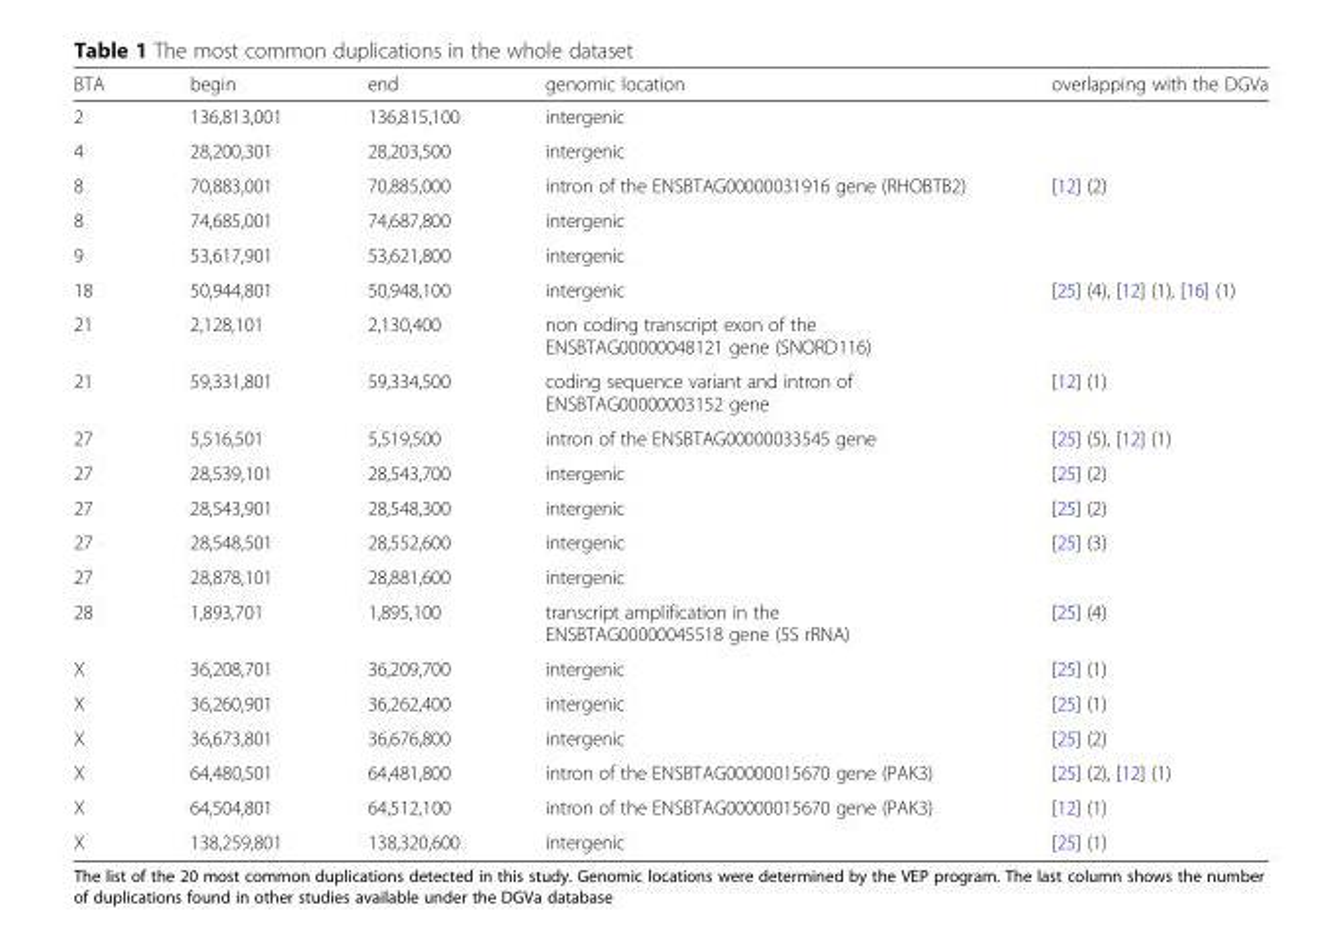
<table><thead><tr><td>BTA</td><td>begin</td><td>end</td><td>genomic location</td><td>overlapping with the DGVa</td></tr></thead><tbody><tr><td>2</td><td>136,813,001</td><td>136,815,100</td><td>intergenic</td><td></td></tr><tr><td>4</td><td>28,200,301</td><td>28,203,500</td><td>intergenic</td><td></td></tr><tr><td>8</td><td>70,883,001</td><td>70,885,000</td><td>intron of the ENSBTAG00000031916 gene (RHOBTB2)</td><td>[12] (2)</td></tr><tr><td>8</td><td>74,685,001</td><td>74,687,800</td><td>intergenic</td><td></td></tr><tr><td>9</td><td>53,617,901</td><td>53,621,800</td><td>intergenic</td><td></td></tr><tr><td>18</td><td>50,944,801</td><td>50,948,100</td><td>intergenic</td><td>[25] (4), [12] (1), [16] (1)</td></tr><tr><td>21</td><td>2,128,101</td><td>2,130,400</td><td>non coding transcript exon of the ENSBTAG00000048121 gene (SNORD116)</td><td></td></tr><tr><td>21</td><td>59,331,801</td><td>59,334,500</td><td>coding sequence variant and intron of ENSBTAG00000003152 gene</td><td>[12] (1)</td></tr><tr><td>27</td><td>5,516,501</td><td>5,519,500</td><td>intron of the ENSBTAG00000033545 gene</td><td>[25] (5), [12] (1)</td></tr><tr><td>27</td><td>28,539,101</td><td>28,543,700</td><td>intergenic</td><td>[25] (2)</td></tr><tr><td>27</td><td>28,543,901</td><td>28,548,300</td><td>intergenic</td><td>[25] (2)</td></tr><tr><td>27</td><td>28,548,501</td><td>28,552,600</td><td>intergenic</td><td>[25] (3)</td></tr><tr><td>27</td><td>28,878,101</td><td>28,881,600</td><td>intergenic</td><td></td></tr><tr><td>28</td><td>1,893,701</td><td>1,895,100</td><td>transcript amplification in the ENSBTAG00000045518 gene (5S rRNA)</td><td>[25] (4)</td></tr><tr><td>X</td><td>36,208,701</td><td>36,209,700</td><td>intergenic</td><td>[25] (1)</td></tr><tr><td>X</td><td>36,260,901</td><td>36,262,400</td><td>intergenic</td><td>[25] (1)</td></tr><tr><td>X</td><td>36,673,801</td><td>36,676,800</td><td>intergenic</td><td>[25] (2)</td></tr><tr><td>X</td><td>64,480,501</td><td>64,481,800</td><td>intron of the ENSBTAG00000015670 gene (PAK3)</td><td>[25] (2), [12] (1)</td></tr><tr><td>X</td><td>64,504,801</td><td>64,512,100</td><td>intron of the ENSBTAG00000015670 gene (PAK3)</td><td>[12] (1)</td></tr><tr><td>X</td><td>138,259,801</td><td>138,320,600</td><td>intergenic</td><td>[25] (1)</td></tr></tbody></table>